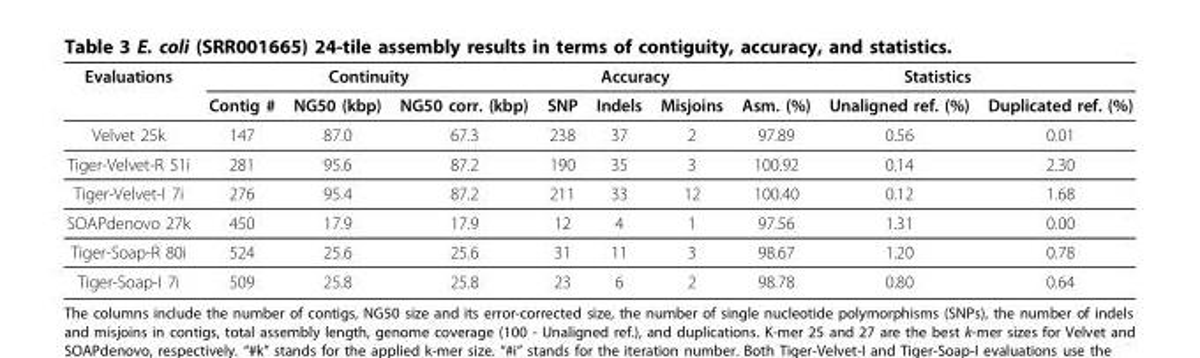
<table><thead><tr><td rowspan="2">Evaluations</td><td colspan="3">Continuity</td><td colspan="3">Accuracy</td><td colspan="3">Statistics</td></tr><tr><td>Contig #</td><td>NG50 (kbp)</td><td>NG50 corr. (kbp)</td><td>SNP</td><td>Indels</td><td>Misjoins</td><td>Asm. (%)</td><td>Unaligned ref. (%)</td><td>Duplicated ref. (%)</td></tr></thead><tbody><tr><td>Velvet 25k</td><td>147</td><td>87.0</td><td>67.3</td><td>238</td><td>37</td><td>2</td><td>97.89</td><td>0.56</td><td>0.01</td></tr><tr><td>Tiger-Velvet-R 51i</td><td>281</td><td>95.6</td><td>87.2</td><td>190</td><td>35</td><td>3</td><td>100.92</td><td>0.14</td><td>2.30</td></tr><tr><td>Tiger-Velvet-I 7i</td><td>276</td><td>95.4</td><td>87.2</td><td>211</td><td>33</td><td>12</td><td>100.40</td><td>0.12</td><td>1.68</td></tr><tr><td>SOAPdenovo 27k</td><td>450</td><td>17.9</td><td>17.9</td><td>12</td><td>4</td><td>1</td><td>97.56</td><td>1.31</td><td>0.00</td></tr><tr><td>Tiger-Soap-R 80i</td><td>524</td><td>25.6</td><td>25.6</td><td>31</td><td>11</td><td>3</td><td>98.67</td><td>1.20</td><td>0.78</td></tr><tr><td>Tiger-Soap-I 7i</td><td>509</td><td>25.8</td><td>25.8</td><td>23</td><td>6</td><td>2</td><td>98.78</td><td>0.80</td><td>0.64</td></tr></tbody></table>